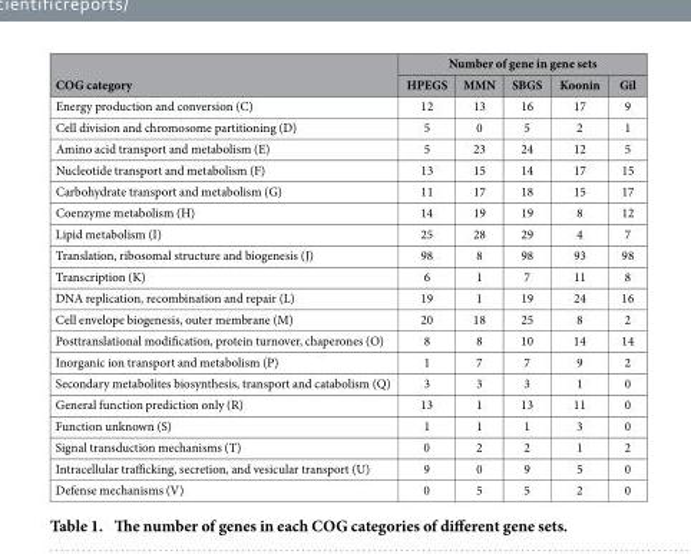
<table><thead><tr><td rowspan="2">COG category</td><td colspan="5">Number of gene in gene sets</td></tr><tr><td>HPEGS</td><td>MMN</td><td>SBGS</td><td>Koonin</td><td>Gil</td></tr></thead><tbody><tr><td>Energy production and conversion (C)</td><td>12</td><td>13</td><td>16</td><td>17</td><td>9</td></tr><tr><td>Cell division and chromosome partitioning (D)</td><td>5</td><td>0</td><td>5</td><td>2</td><td>1</td></tr><tr><td>Amino acid transport and metabolism (E)</td><td>5</td><td>23</td><td>24</td><td>12</td><td>5</td></tr><tr><td>Nucleotide transport and metabolism (F)</td><td>13</td><td>15</td><td>14</td><td>17</td><td>15</td></tr><tr><td>Carbohydrate transport and metabolism (G)</td><td>11</td><td>17</td><td>18</td><td>15</td><td>17</td></tr><tr><td>Coenzyme metabolism (H)</td><td>14</td><td>19</td><td>19</td><td>8</td><td>12</td></tr><tr><td>Lipid metabolism (I)</td><td>25</td><td>28</td><td>29</td><td>4</td><td>7</td></tr><tr><td>Translation, ribosomal structure and biogenesis (J)</td><td>98</td><td>8</td><td>98</td><td>93</td><td>98</td></tr><tr><td>Transcription (K)</td><td>6</td><td>1</td><td>7</td><td>11</td><td>8</td></tr><tr><td>DNA replication, recombination and repair (L)</td><td>19</td><td>1</td><td>19</td><td>24</td><td>16</td></tr><tr><td>Cell envelope biogenesis, outer membrane (M)</td><td>20</td><td>18</td><td>25</td><td>8</td><td>2</td></tr><tr><td>Posttranslational modification, protein turnover, chaperones (O)</td><td>8</td><td>8</td><td>10</td><td>14</td><td>14</td></tr><tr><td>Inorganic ion transport and metabolism (P)</td><td>1</td><td>7</td><td>7</td><td>9</td><td>2</td></tr><tr><td>Secondary metabolites biosynthesis, transport and catabolism (Q)</td><td>3</td><td>3</td><td>3</td><td>1</td><td>0</td></tr><tr><td>General function prediction only (R)</td><td>13</td><td>1</td><td>13</td><td>11</td><td>0</td></tr><tr><td>Function unknown (S)</td><td>1</td><td>1</td><td>1</td><td>3</td><td>0</td></tr><tr><td>Signal transduction mechanisms (T)</td><td>0</td><td>2</td><td>2</td><td>1</td><td>2</td></tr><tr><td>Intracellular trafficking, secretion, and vesicular transport (U)</td><td>9</td><td>0</td><td>9</td><td>5</td><td>0</td></tr><tr><td>Defense mechanisms (V)</td><td>0</td><td>5</td><td>5</td><td>2</td><td>0</td></tr></tbody></table>